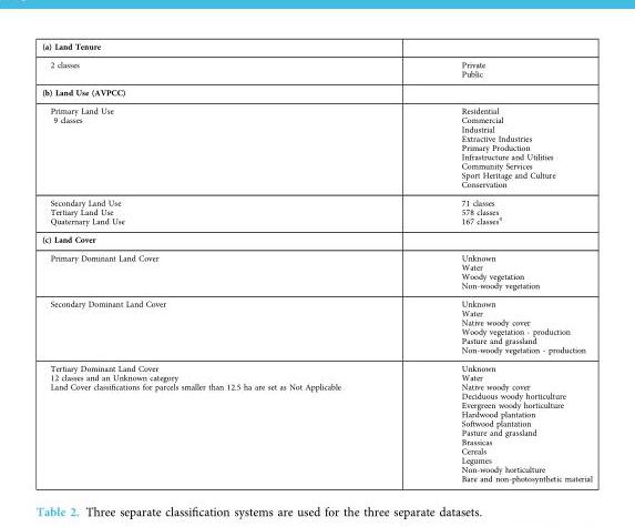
<table><tbody><tr><td colspan="2">(a) Land Tenure</td></tr><tr><td>2 classes</td><td>Private Public</td></tr><tr><td colspan="2">(b) Land Use (AVPCC)</td></tr><tr><td>Primary Land Use 9 classes</td><td>Residential Commercial Industrial Extractive Industries Primary Production Infrastructure and Utilities Community Services Sport Heritage and Culture Conservation</td></tr><tr><td>Secondary Land Use Tertiary Land Use Quaternary Land Use</td><td>71 classes 578 classes 167 classes<sup>4</sup></td></tr><tr><td colspan="2">(c) Land Cover</td></tr><tr><td>Primary Dominant Land Cover</td><td>Unknown Water Woody vegetation Non-woody vegetation</td></tr><tr><td>Secondary Dominant Land Cover</td><td>Unknown Water Native woody cover Woody vegetation - production Pasture and grassland Non-woody vegetation - production</td></tr><tr><td>Tertiary Dominant Land Cover 12 classes and an Unknown category Land Cover classifications for parcels smaller than 12.5 ha are set as Not Applicable</td><td>Unknown Water Native woody cover Deciduous woody horticulture Evergreen woody horticulture Hardwood plantation Softwood plantation Pasture and grassland Brassicas Cereals Legumes Non-woody horticulture Bare and non-photosynthetic material</td></tr></tbody></table>